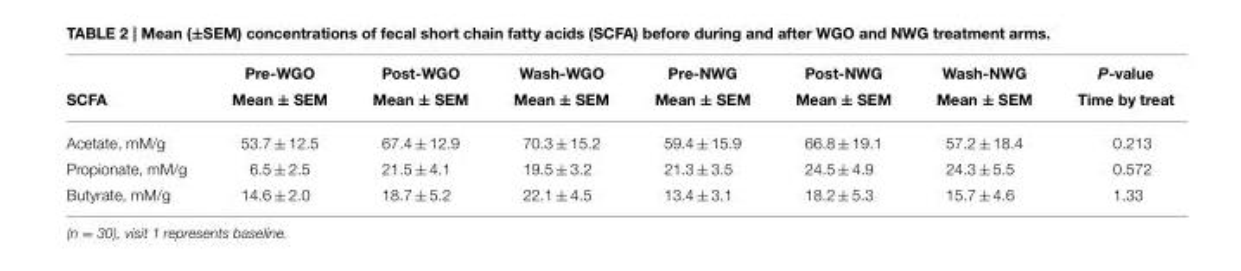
<table><thead><tr><td rowspan="2">SCFA</td><td rowspan="2">Pre-WGO Mean ± SEM</td><td rowspan="2">Post-WGO Mean ± SEM</td><td rowspan="2">Wash-WGO Mean ± SEM</td><td rowspan="2">Pre-NWG Mean ± SEM</td><td rowspan="2">Post-NWG Mean ± SEM</td><td rowspan="2">Wash-NWG Mean ± SEM</td><td rowspan="2">P-value Time by treat</td></tr><tr></tr></thead><tbody><tr><td>Acetate, mM/g</td><td>53.7 ± 12.5</td><td>67.4 ± 12.9</td><td>70.3 ± 15.2</td><td>59.4 ± 15.9</td><td>66.8 ± 19.1</td><td>57.2 ± 18.4</td><td>0.213</td></tr><tr><td>Propionate, mM/g</td><td>6.5 ± 2.5</td><td>21.5 ± 4.1</td><td>19.5 ± 3.2</td><td>21.3 ± 3.5</td><td>24.5 ± 4.9</td><td>24.3 ± 5.5</td><td>0.572</td></tr><tr><td>Butyrate, mM/g</td><td>14.6 ± 2.0</td><td>18.7 ± 5.2</td><td>22.1 ± 4.5</td><td>13.4 ± 3.1</td><td>18.2 ± 5.3</td><td>15.7 ± 4.6</td><td>1.33</td></tr></tbody></table>